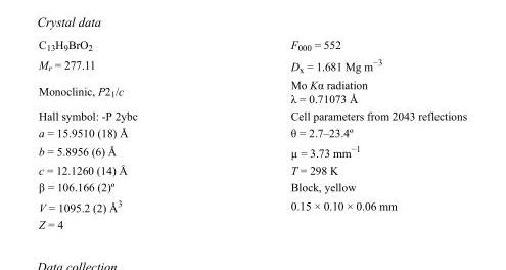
<table><tbody><tr><td>C<sub>13</sub>H<sub>9</sub>BrO<sub>2</sub></td><td>F<sub>000</sub> = 552</td></tr><tr><td>M<sub>r</sub> = 277.11</td><td>D<sub>x</sub> = 1.681 Mg m<sup>−3</sup></td></tr><tr><td>Monoclinic, P2<sub>1</sub>/c</td><td>Mo Kα radiation λ = 0.71073 Å</td></tr><tr><td>Hall symbol: -P 2ybc</td><td>Cell parameters from 2043 reflections</td></tr><tr><td>a = 15.9510 (18) Å</td><td>θ = 2.7–23.4º</td></tr><tr><td>b = 5.8956 (6) Å</td><td>µ = 3.73 mm<sup>−1</sup></td></tr><tr><td>c = 12.1260 (14) Å</td><td>T = 298 K</td></tr><tr><td>β = 106.166 (2)º</td><td>Block, yellow</td></tr><tr><td>V = 1095.2 (2) Å<sup>3</sup></td><td>0.15 × 0.10 × 0.06 mm</td></tr><tr><td>Z = 4</td><td></td></tr></tbody></table>